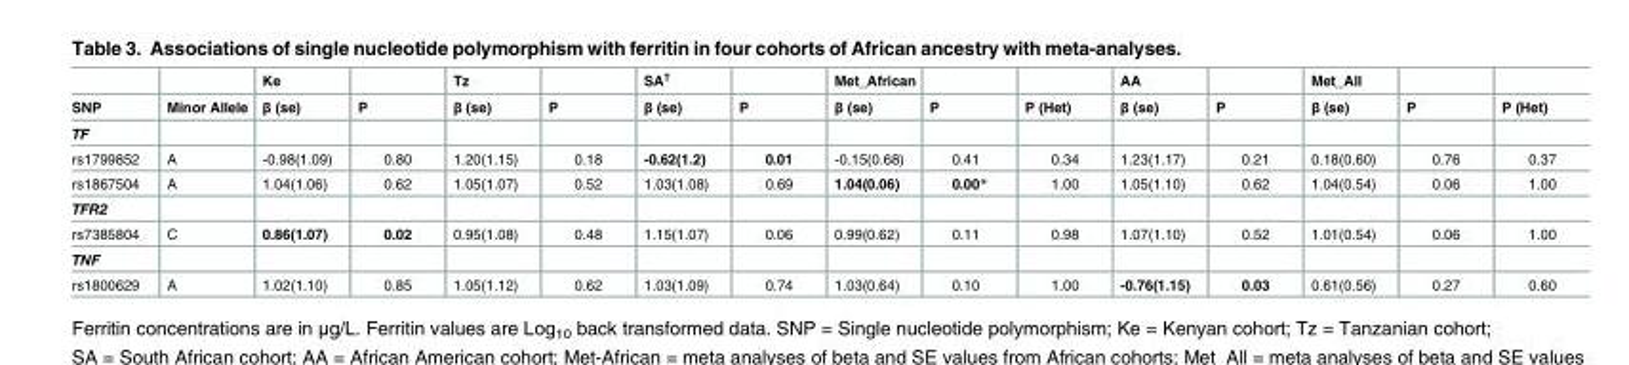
<table><thead><tr><td rowspan="2">SNP</td><td rowspan="2">Minor Allele</td><td rowspan="2">Ke β (se)</td><td rowspan="2">P</td><td rowspan="2">Tz β (se)</td><td rowspan="2">P</td><td rowspan="2">SA<sup>†</sup> β (se)</td><td rowspan="2">P</td><td rowspan="2">Met_African β (se)</td><td rowspan="2">P</td><td rowspan="2">P (Het)</td><td rowspan="2">AA β (se)</td><td rowspan="2">P</td><td rowspan="2">Met_All β (se)</td><td rowspan="2">P</td><td rowspan="2">P (Het)</td></tr><tr></tr></thead><tbody><tr><td colspan="16">TF</td></tr><tr><td>rs1799852</td><td>A</td><td>-0.98(1.09)</td><td>0.80</td><td>1.20(1.15)</td><td>0.18</td><td>-0.62(1.2)</td><td>0.01</td><td>-0.15(0.68)</td><td>0.41</td><td>0.34</td><td>1.23(1.17)</td><td>0.21</td><td>0.18(0.60)</td><td>0.76</td><td>0.37</td></tr><tr><td>rs1867504</td><td>A</td><td>1.04(1.06)</td><td>0.62</td><td>1.05(1.07)</td><td>0.52</td><td>1.03(1.08)</td><td>0.69</td><td>1.04(0.06)</td><td>0.00*</td><td>1.00</td><td>1.05(1.10)</td><td>0.62</td><td>1.04(0.54)</td><td>0.06</td><td>1.00</td></tr><tr><td colspan="16">TFR2</td></tr><tr><td>rs7385804</td><td>C</td><td>0.86(1.07)</td><td>0.02</td><td>0.95(1.08)</td><td>0.48</td><td>1.15(1.07)</td><td>0.06</td><td>0.99(0.62)</td><td>0.11</td><td>0.98</td><td>1.07(1.10)</td><td>0.52</td><td>1.01(0.54)</td><td>0.06</td><td>1.00</td></tr><tr><td colspan="16">TNF</td></tr><tr><td>rs1800629</td><td>A</td><td>1.02(1.10)</td><td>0.85</td><td>1.05(1.12)</td><td>0.62</td><td>1.03(1.09)</td><td>0.74</td><td>1.03(0.64)</td><td>0.10</td><td>1.00</td><td>-0.76(1.15)</td><td>0.03</td><td>0.61(0.56)</td><td>0.27</td><td>0.60</td></tr></tbody></table>